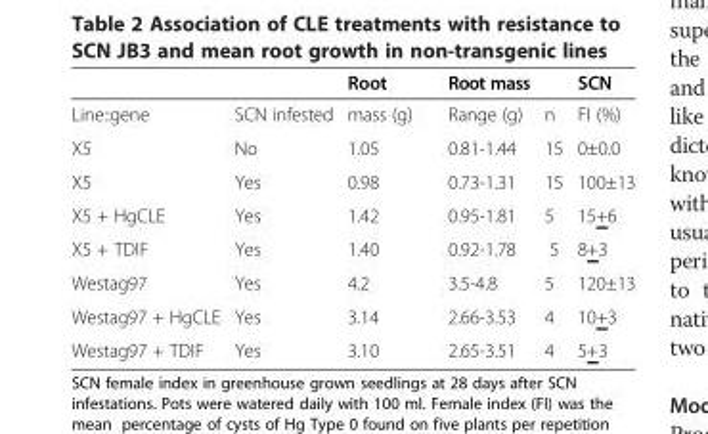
<table><thead><tr><td></td><td></td><td>Root</td><td>Root mass</td><td></td><td>SCN</td></tr></thead><tbody><tr><td>Line::gene</td><td>SCN infested</td><td>mass (g)</td><td>Range (g)</td><td>n</td><td>FI (%)</td></tr><tr><td>X5</td><td>No</td><td>1.05</td><td>0.81-1.44</td><td>15</td><td>0±0.0</td></tr><tr><td>X5</td><td>Yes</td><td>0.98</td><td>0.73-1.31</td><td>15</td><td>100±13</td></tr><tr><td>X5 + HgCLE</td><td>Yes</td><td>1.42</td><td>0.95-1.81</td><td>5</td><td>15+6</td></tr><tr><td>X5 + TDIF</td><td>Yes</td><td>1.40</td><td>0.92-1.78</td><td>5</td><td>8+3</td></tr><tr><td>Westag97</td><td>Yes</td><td>4.2</td><td>3.5-4.8</td><td>5</td><td>120±13</td></tr><tr><td>Westag97 + HgCLE</td><td>Yes</td><td>3.14</td><td>2.66-3.53</td><td>4</td><td>10+3</td></tr><tr><td>Westag97 + TDIF</td><td>Yes</td><td>3.10</td><td>2.65-3.51</td><td>4</td><td>5+3</td></tr></tbody></table>